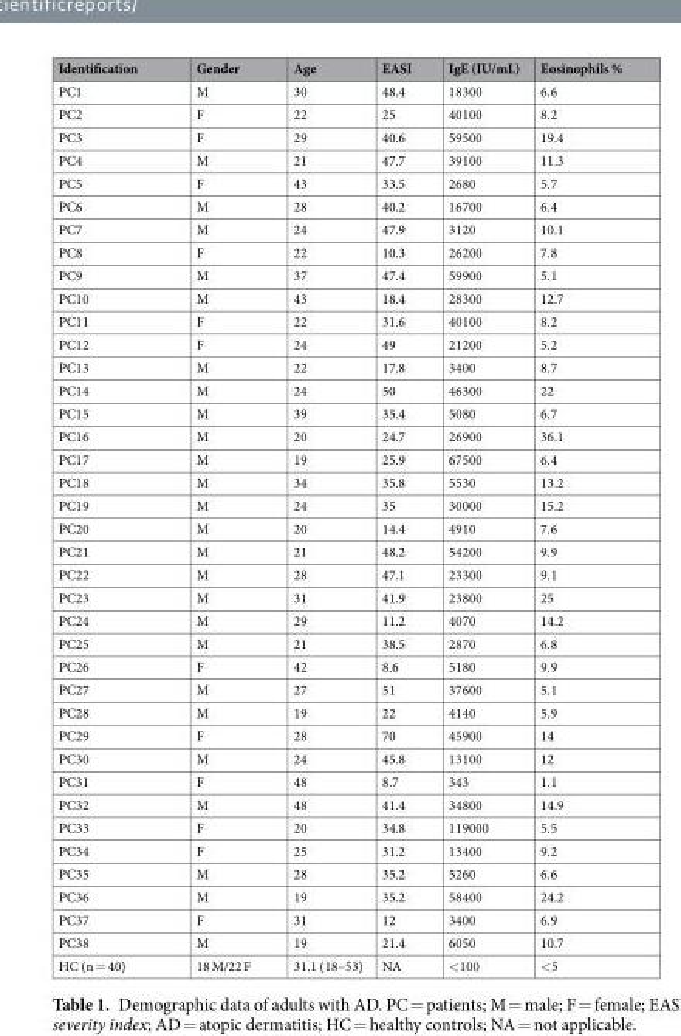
<table><thead><tr><td>Identification</td><td>Gender</td><td>Age</td><td>EASI</td><td>IgE (IU/mL)</td><td>Eosinophils %</td></tr></thead><tbody><tr><td>PC1</td><td>M</td><td>30</td><td>48.4</td><td>18300</td><td>6.6</td></tr><tr><td>PC2</td><td>F</td><td>22</td><td>25</td><td>40100</td><td>8.2</td></tr><tr><td>PC3</td><td>F</td><td>29</td><td>40.6</td><td>59500</td><td>19.4</td></tr><tr><td>PC4</td><td>M</td><td>21</td><td>47.7</td><td>39100</td><td>11.3</td></tr><tr><td>PC5</td><td>F</td><td>43</td><td>33.5</td><td>2680</td><td>5.7</td></tr><tr><td>PC6</td><td>M</td><td>28</td><td>40.2</td><td>16700</td><td>6.4</td></tr><tr><td>PC7</td><td>M</td><td>24</td><td>47.9</td><td>3120</td><td>10.1</td></tr><tr><td>PC8</td><td>F</td><td>22</td><td>10.3</td><td>26200</td><td>7.8</td></tr><tr><td>PC9</td><td>M</td><td>37</td><td>47.4</td><td>59900</td><td>5.1</td></tr><tr><td>PC10</td><td>M</td><td>43</td><td>18.4</td><td>28300</td><td>12.7</td></tr><tr><td>PC11</td><td>F</td><td>22</td><td>31.6</td><td>40100</td><td>8.2</td></tr><tr><td>PC12</td><td>F</td><td>24</td><td>49</td><td>21200</td><td>5.2</td></tr><tr><td>PC13</td><td>M</td><td>22</td><td>17.8</td><td>3400</td><td>8.7</td></tr><tr><td>PC14</td><td>M</td><td>24</td><td>50</td><td>46300</td><td>22</td></tr><tr><td>PC15</td><td>M</td><td>39</td><td>35.4</td><td>5080</td><td>6.7</td></tr><tr><td>PC16</td><td>M</td><td>20</td><td>24.7</td><td>26900</td><td>36.1</td></tr><tr><td>PC17</td><td>M</td><td>19</td><td>25.9</td><td>67500</td><td>6.4</td></tr><tr><td>PC18</td><td>M</td><td>34</td><td>35.8</td><td>5530</td><td>13.2</td></tr><tr><td>PC19</td><td>M</td><td>24</td><td>35</td><td>30000</td><td>15.2</td></tr><tr><td>PC20</td><td>M</td><td>20</td><td>14.4</td><td>4910</td><td>7.6</td></tr><tr><td>PC21</td><td>M</td><td>21</td><td>48.2</td><td>54200</td><td>9.9</td></tr><tr><td>PC22</td><td>M</td><td>28</td><td>47.1</td><td>23300</td><td>9.1</td></tr><tr><td>PC23</td><td>M</td><td>31</td><td>41.9</td><td>23800</td><td>25</td></tr><tr><td>PC24</td><td>M</td><td>29</td><td>11.2</td><td>4070</td><td>14.2</td></tr><tr><td>PC25</td><td>M</td><td>21</td><td>38.5</td><td>2870</td><td>6.8</td></tr><tr><td>PC26</td><td>F</td><td>42</td><td>8.6</td><td>5180</td><td>9.9</td></tr><tr><td>PC27</td><td>M</td><td>27</td><td>51</td><td>37600</td><td>5.1</td></tr><tr><td>PC28</td><td>M</td><td>19</td><td>22</td><td>4140</td><td>5.9</td></tr><tr><td>PC29</td><td>F</td><td>28</td><td>70</td><td>45900</td><td>14</td></tr><tr><td>PC30</td><td>M</td><td>24</td><td>45.8</td><td>13100</td><td>12</td></tr><tr><td>PC31</td><td>F</td><td>48</td><td>8.7</td><td>343</td><td>1.1</td></tr><tr><td>PC32</td><td>M</td><td>48</td><td>41.4</td><td>34800</td><td>14.9</td></tr><tr><td>PC33</td><td>F</td><td>20</td><td>34.8</td><td>119000</td><td>5.5</td></tr><tr><td>PC34</td><td>F</td><td>25</td><td>31.2</td><td>13400</td><td>9.2</td></tr><tr><td>PC35</td><td>M</td><td>28</td><td>35.2</td><td>5260</td><td>6.6</td></tr><tr><td>PC36</td><td>M</td><td>19</td><td>35.2</td><td>58400</td><td>24.2</td></tr><tr><td>PC37</td><td>F</td><td>31</td><td>12</td><td>3400</td><td>6.9</td></tr><tr><td>PC38</td><td>M</td><td>19</td><td>21.4</td><td>6050</td><td>10.7</td></tr><tr><td>HC (n = 40)</td><td>18 M/22 F</td><td>31.1 (18–53)</td><td>NA</td><td>&lt;100</td><td>&lt;5</td></tr></tbody></table>